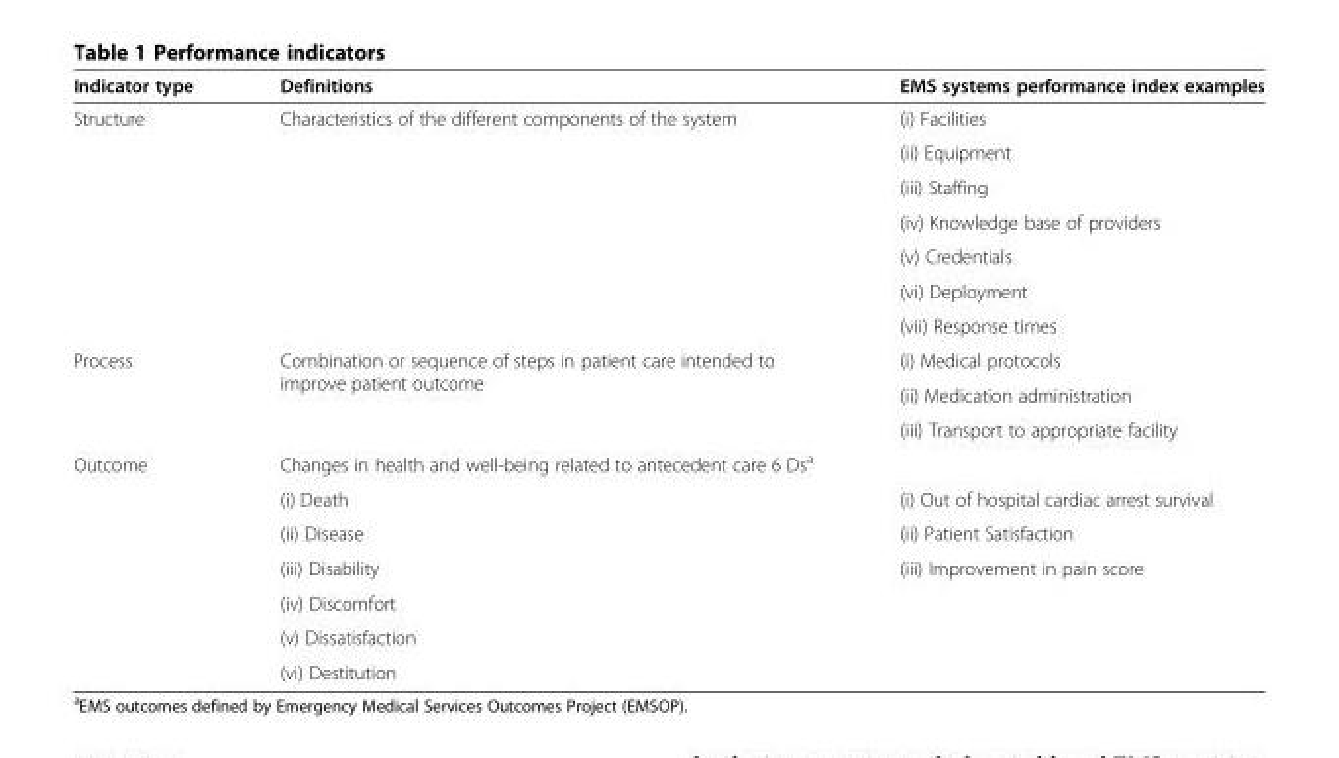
<table><thead><tr><td>Indicator type</td><td>Definitions</td><td>EMS systems performance index examples</td></tr></thead><tbody><tr><td rowspan="7">Structure</td><td rowspan="7">Characteristics of the different components of the system</td><td>(i) Facilities</td></tr><tr><td>(ii) Equipment</td></tr><tr><td>(iii) Staffing</td></tr><tr><td>(iv) Knowledge base of providers</td></tr><tr><td>(v) Credentials</td></tr><tr><td>(vi) Deployment</td></tr><tr><td>(vii) Response times</td></tr><tr><td rowspan="3">Process</td><td rowspan="3">Combination or sequence of steps in patient care intended to improve patient outcome</td><td>(i) Medical protocols</td></tr><tr><td>(ii) Medication administration</td></tr><tr><td>(iii) Transport to appropriate facility</td></tr><tr><td rowspan="7">Outcome</td><td>Changes in health and well-being related to antecedent care 6 Ds<sup>a</sup></td><td></td></tr><tr><td>(i) Death</td><td>(i) Out of hospital cardiac arrest survival</td></tr><tr><td>(ii) Disease</td><td>(ii) Patient Satisfaction</td></tr><tr><td>(iii) Disability</td><td>(iii) Improvement in pain score</td></tr><tr><td>(iv) Discomfort</td><td></td></tr><tr><td>(v) Dissatisfaction</td><td></td></tr><tr><td>(vi) Destitution</td><td></td></tr></tbody></table>